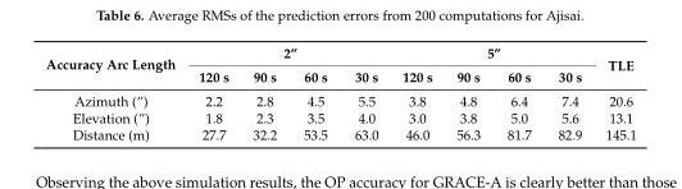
<table><thead><tr><td rowspan="2">Accuracy Arc Length</td><td colspan="4">2”</td><td colspan="4">5”</td><td rowspan="2">TLE</td></tr><tr><td>120 s</td><td>90 s</td><td>60 s</td><td>30 s</td><td>120 s</td><td>90 s</td><td>60 s</td><td>30 s</td></tr></thead><tbody><tr><td>Azimuth (”)</td><td>2.2</td><td>2.8</td><td>4.5</td><td>5.5</td><td>3.8</td><td>4.8</td><td>6.4</td><td>7.4</td><td>20.6</td></tr><tr><td>Elevation (”)</td><td>1.8</td><td>2.3</td><td>3.5</td><td>4.0</td><td>3.0</td><td>3.8</td><td>5.0</td><td>5.6</td><td>13.1</td></tr><tr><td>Distance (m)</td><td>27.7</td><td>32.2</td><td>53.5</td><td>63.0</td><td>46.0</td><td>56.3</td><td>81.7</td><td>82.9</td><td>145.1</td></tr></tbody></table>